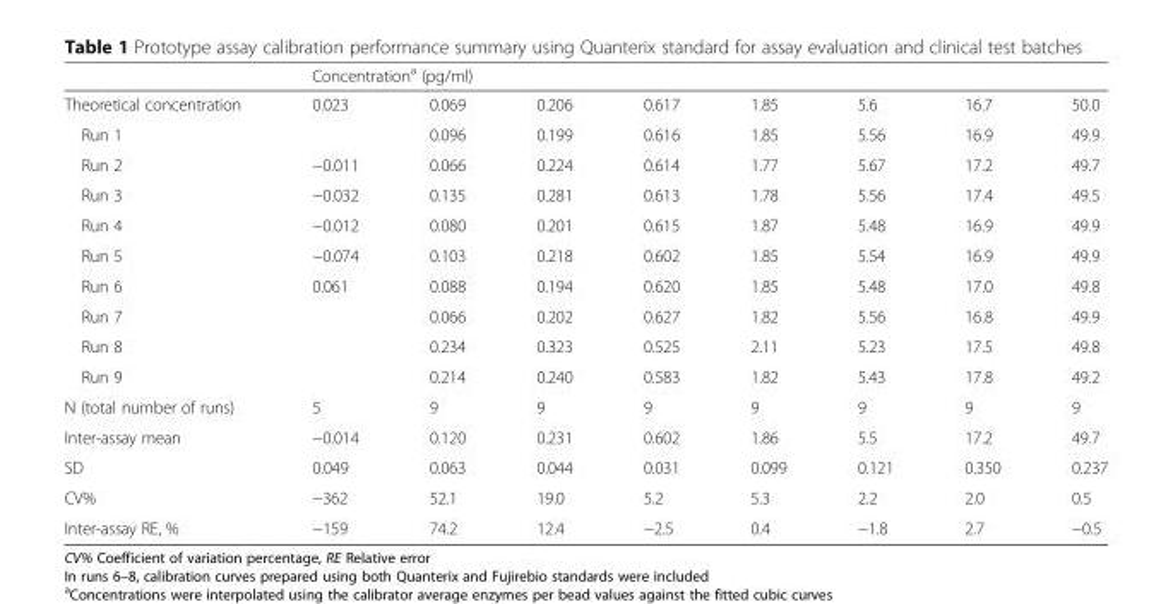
<table><thead><tr><td rowspan="2">Theoretical concentration</td><td colspan="8">Concentration<sup>a</sup> (pg/ml)</td></tr><tr><td>0.023</td><td>0.069</td><td>0.206</td><td>0.617</td><td>1.85</td><td>5.6</td><td>16.7</td><td>50.0</td></tr></thead><tbody><tr><td>Run 1</td><td></td><td>0.096</td><td>0.199</td><td>0.616</td><td>1.85</td><td>5.56</td><td>16.9</td><td>49.9</td></tr><tr><td>Run 2</td><td>−0.011</td><td>0.066</td><td>0.224</td><td>0.614</td><td>1.77</td><td>5.67</td><td>17.2</td><td>49.7</td></tr><tr><td>Run 3</td><td>−0.032</td><td>0.135</td><td>0.281</td><td>0.613</td><td>1.78</td><td>5.56</td><td>17.4</td><td>49.5</td></tr><tr><td>Run 4</td><td>−0.012</td><td>0.080</td><td>0.201</td><td>0.615</td><td>1.87</td><td>5.48</td><td>16.9</td><td>49.9</td></tr><tr><td>Run 5</td><td>−0.074</td><td>0.103</td><td>0.218</td><td>0.602</td><td>1.85</td><td>5.54</td><td>16.9</td><td>49.9</td></tr><tr><td>Run 6</td><td>0.061</td><td>0.088</td><td>0.194</td><td>0.620</td><td>1.85</td><td>5.48</td><td>17.0</td><td>49.8</td></tr><tr><td>Run 7</td><td></td><td>0.066</td><td>0.202</td><td>0.627</td><td>1.82</td><td>5.56</td><td>16.8</td><td>49.9</td></tr><tr><td>Run 8</td><td></td><td>0.234</td><td>0.323</td><td>0.525</td><td>2.11</td><td>5.23</td><td>17.5</td><td>49.8</td></tr><tr><td>Run 9</td><td></td><td>0.214</td><td>0.240</td><td>0.583</td><td>1.82</td><td>5.43</td><td>17.8</td><td>49.2</td></tr><tr><td>N (total number of runs)</td><td>5</td><td>9</td><td>9</td><td>9</td><td>9</td><td>9</td><td>9</td><td>9</td></tr><tr><td>Inter-assay mean</td><td>−0.014</td><td>0.120</td><td>0.231</td><td>0.602</td><td>1.86</td><td>5.5</td><td>17.2</td><td>49.7</td></tr><tr><td>SD</td><td>0.049</td><td>0.063</td><td>0.044</td><td>0.031</td><td>0.099</td><td>0.121</td><td>0.350</td><td>0.237</td></tr><tr><td>CV%</td><td>−362</td><td>52.1</td><td>19.0</td><td>5.2</td><td>5.3</td><td>2.2</td><td>2.0</td><td>0.5</td></tr><tr><td>Inter-assay RE, %</td><td>−159</td><td>74.2</td><td>12.4</td><td>−2.5</td><td>0.4</td><td>−1.8</td><td>2.7</td><td>−0.5</td></tr></tbody></table>